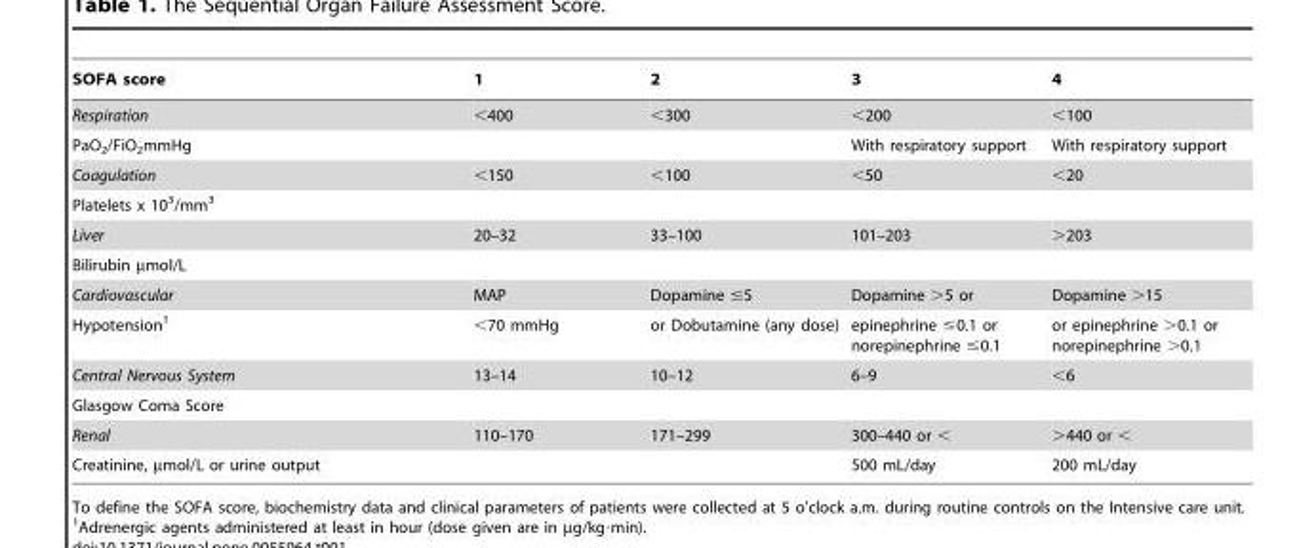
<table><thead><tr><td>SOFA score</td><td>1</td><td>2</td><td>3</td><td>4</td></tr></thead><tbody><tr><td>Respiration</td><td>&lt;400</td><td>&lt;300</td><td>&lt;200</td><td>&lt;100</td></tr><tr><td>PaO<sub>2</sub>/FiO<sub>2</sub>mmHg</td><td></td><td></td><td>With respiratory support</td><td>With respiratory support</td></tr><tr><td>Coagulation</td><td>&lt;150</td><td>&lt;100</td><td>&lt;50</td><td>&lt;20</td></tr><tr><td colspan="5">Platelets x 10<sup>3</sup>/mm<sup>3</sup></td></tr><tr><td>Liver</td><td>20–32</td><td>33–100</td><td>101–203</td><td>&gt;203</td></tr><tr><td colspan="5">Bilirubin µmol/L</td></tr><tr><td>Cardiovascular</td><td>MAP</td><td>Dopamine ≤5</td><td>Dopamine &gt;5 or</td><td>Dopamine &gt;15</td></tr><tr><td>Hypotension<sup>1</sup></td><td>&lt;70 mmHg</td><td>or Dobutamine (any dose)</td><td>epinephrine ≤0.1 or norepinephrine ≤0.1</td><td>or epinephrine &gt;0.1 or norepinephrine &gt;0.1</td></tr><tr><td>Central Nervous System</td><td>13–14</td><td>10–12</td><td>6–9</td><td>&lt;6</td></tr><tr><td colspan="5">Glasgow Coma Score</td></tr><tr><td>Renal</td><td>110–170</td><td>171–299</td><td>300–440 or &lt;</td><td>&gt;440 or &lt;</td></tr><tr><td>Creatinine, µmol/L or urine output</td><td></td><td></td><td>500 mL/day</td><td>200 mL/day</td></tr></tbody></table>